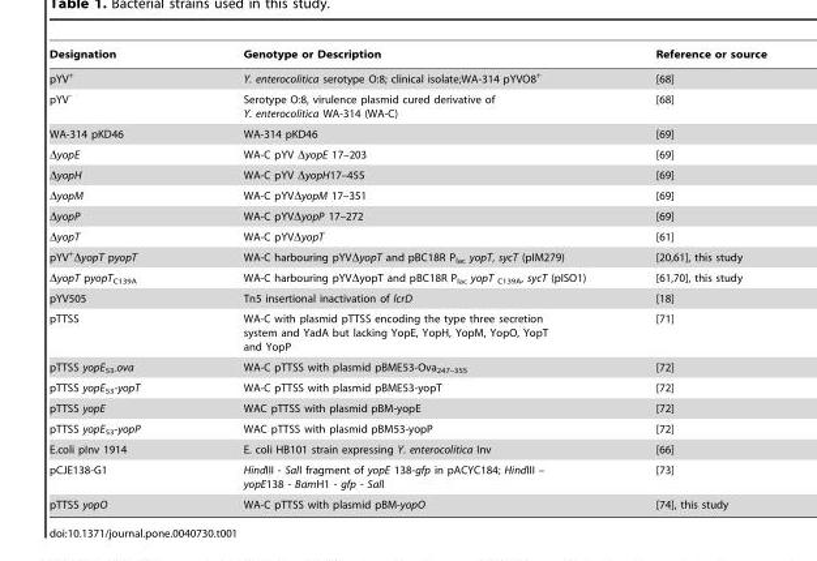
<table><thead><tr><td>Designation</td><td>Genotype or Description</td><td>Reference or source</td></tr></thead><tbody><tr><td>pYV<sup>+</sup></td><td>Y. enterocolitica serotype O:8; clinical isolate;WA-314 pYVO8<sup>+</sup></td><td>[68]</td></tr><tr><td>pYV<sup>-</sup></td><td>Serotype O:8, virulence plasmid cured derivative of Y. enterocolitica WA-314 (WA-C)</td><td>[68]</td></tr><tr><td>WA-314 pKD46</td><td>WA-314 pKD46</td><td>[69]</td></tr><tr><td>ΔyopE</td><td>WA-C pYV ΔyopE 17–203</td><td>[69]</td></tr><tr><td>ΔyopH</td><td>WA-C pYV ΔyopH17–455</td><td>[69]</td></tr><tr><td>ΔyopM</td><td>WA-C pYVΔyopM 17–351</td><td>[69]</td></tr><tr><td>ΔyopP</td><td>WA-C pYVΔyopP 17–272</td><td>[69]</td></tr><tr><td>ΔyopT</td><td>WA-C pYVΔyopT</td><td>[61]</td></tr><tr><td>pYV<sup>+</sup>ΔyopT pyopT</td><td>WA-C harbouring pYVΔyopT and pBC18R P<sub>lac</sub> yopT, sycT (pIM279)</td><td>[20,61], this study</td></tr><tr><td>ΔyopT pyopT<sub>C139A</sub></td><td>WA-C harbouring pYVΔyopT and pBC18R P<sub>lac</sub> yopT <sub>C139A</sub>, sycT (pISO1)</td><td>[61,70], this study</td></tr><tr><td>pYV505</td><td>Tn5 insertional inactivation of lcrD</td><td>[18]</td></tr><tr><td>pTTSS</td><td>WA-C with plasmid pTTSS encoding the type three secretion system and YadA but lacking YopE, YopH, YopM, YopO, YopT and YopP</td><td>[71]</td></tr><tr><td>pTTSS yopE<sub>53-</sub>ova</td><td>WA-C pTTSS with plasmid pBME53-Ova<sub>247–355</sub></td><td>[72]</td></tr><tr><td>pTTSS yopE<sub>53</sub>-yopT</td><td>WA-C pTTSS with plasmid pBME53-yopT</td><td>[72]</td></tr><tr><td>pTTSS yopE</td><td>WAC pTTSS with plasmid pBM-yopE</td><td>[72]</td></tr><tr><td>pTTSS yopE<sub>53</sub>-yopP</td><td>WAC pTTSS with plasmid pBM53-yopP</td><td>[72]</td></tr><tr><td>E.coli pInv 1914</td><td>E. coli HB101 strain expressing Y. enterocolitica Inv</td><td>[66]</td></tr><tr><td>pCJE138-G1</td><td>HindIII - SalI fragment of yopE 138-gfp in pACYC184; HindIII – yopE138 - BamH1 - gfp - SalI</td><td>[73]</td></tr><tr><td>pTTSS yopO</td><td>WA-C pTTSS with plasmid pBM-yopO</td><td>[74], this study</td></tr></tbody></table>